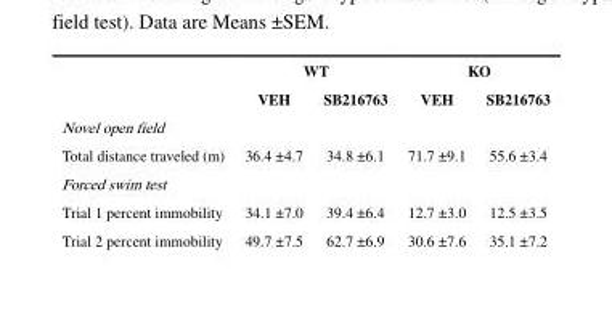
<table><thead><tr><td rowspan="2"></td><td colspan="2">WT</td><td colspan="2">KO</td></tr><tr><td>VEH</td><td>SB216763</td><td>VEH</td><td>SB216763</td></tr></thead><tbody><tr><td colspan="5">Novel open field</td></tr><tr><td>Total distance traveled (m)</td><td>36.4 ±4.7</td><td>34.8 ±6.1</td><td>71.7 ±9.1</td><td>55.6 ±3.4</td></tr><tr><td colspan="5">Forced swim test</td></tr><tr><td>Trial 1 percent immobility</td><td>34.1 ±7.0</td><td>39.4 ±6.4</td><td>12.7 ±3.0</td><td>12.5 ±3.5</td></tr><tr><td>Trial 2 percent immobility</td><td>49.7 ±7.5</td><td>62.7 ±6.9</td><td>30.6 ±7.6</td><td>35.1 ±7.2</td></tr></tbody></table>